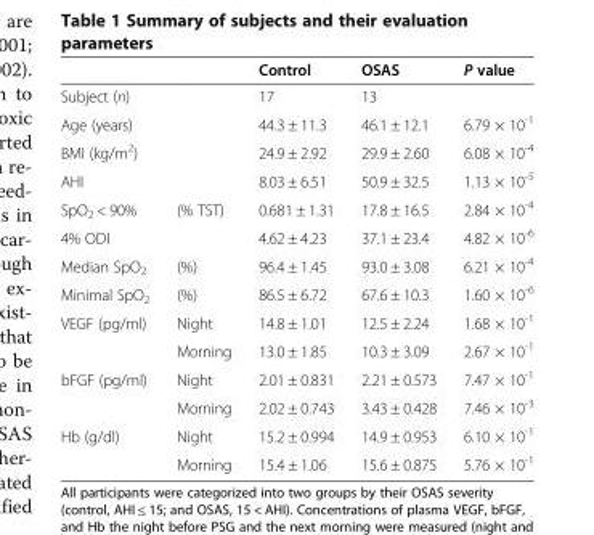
<table><thead><tr><td></td><td></td><td>Control</td><td>OSAS</td><td>P value</td></tr></thead><tbody><tr><td>Subject (n)</td><td></td><td>17</td><td>13</td><td></td></tr><tr><td>Age (years)</td><td></td><td>44.3 ± 11.3</td><td>46.1 ± 12.1</td><td>6.79 × 10<sup>-1</sup></td></tr><tr><td>BMI (kg/m<sup>2</sup>)</td><td></td><td>24.9 ± 2.92</td><td>29.9 ± 2.60</td><td>6.08 × 10<sup>-4</sup></td></tr><tr><td>AHI</td><td></td><td>8.03 ± 6.51</td><td>50.9 ± 32.5</td><td>1.13 × 10<sup>-5</sup></td></tr><tr><td>SpO<sub>2</sub> &lt; 90%</td><td>(% TST)</td><td>0.681 ± 1.31</td><td>17.8 ± 16.5</td><td>2.84 × 10<sup>-4</sup></td></tr><tr><td>4% ODI</td><td></td><td>4.62 ± 4.23</td><td>37.1 ± 23.4</td><td>4.82 × 10<sup>-6</sup></td></tr><tr><td>Median SpO<sub>2</sub></td><td>(%)</td><td>96.4 ± 1.45</td><td>93.0 ± 3.08</td><td>6.21 × 10<sup>-4</sup></td></tr><tr><td>Minimal SpO<sub>2</sub></td><td>(%)</td><td>86.5 ± 6.72</td><td>67.6 ± 10.3</td><td>1.60 × 10<sup>-6</sup></td></tr><tr><td rowspan="2">VEGF (pg/ml)</td><td>Night</td><td>14.8 ± 1.01</td><td>12.5 ± 2.24</td><td>1.68 × 10<sup>-1</sup></td></tr><tr><td>Morning</td><td>13.0 ± 1.85</td><td>10.3 ± 3.09</td><td>2.67 × 10<sup>-1</sup></td></tr><tr><td rowspan="2">bFGF (pg/ml)</td><td>Night</td><td>2.01 ± 0.831</td><td>2.21 ± 0.573</td><td>7.47 × 10<sup>-1</sup></td></tr><tr><td>Morning</td><td>2.02 ± 0.743</td><td>3.43 ± 0.428</td><td>7.46 × 10<sup>-3</sup></td></tr><tr><td rowspan="2">Hb (g/dl)</td><td>Night</td><td>15.2 ± 0.994</td><td>14.9 ± 0.953</td><td>6.10 × 10<sup>-1</sup></td></tr><tr><td>Morning</td><td>15.4 ± 1.06</td><td>15.6 ± 0.875</td><td>5.76 × 10<sup>-1</sup></td></tr></tbody></table>